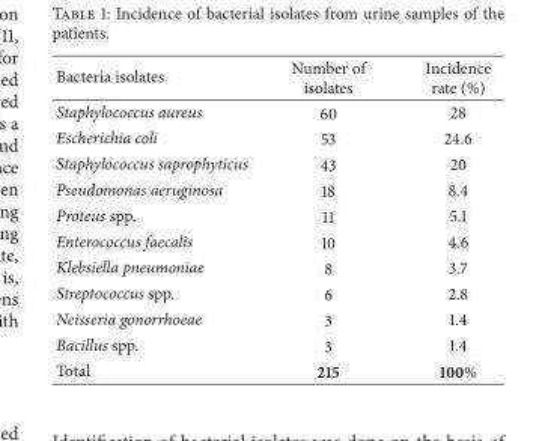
<table><thead><tr><td>Bacteria isolates</td><td>Number of isolates</td><td>Incidence rate (%)</td></tr></thead><tbody><tr><td>Staphylococcus aureus</td><td>60</td><td>28</td></tr><tr><td>Escherichia coli</td><td>53</td><td>24.6</td></tr><tr><td>Staphylococcus saprophyticus</td><td>43</td><td>20</td></tr><tr><td>Pseudomonas aeruginosa</td><td>18</td><td>8.4</td></tr><tr><td>Proteus spp.</td><td>11</td><td>5.1</td></tr><tr><td>Enterococcus faecalis</td><td>10</td><td>4.6</td></tr><tr><td>Klebsiella pneumoniae</td><td>8</td><td>3.7</td></tr><tr><td>Streptococcus spp.</td><td>6</td><td>2.8</td></tr><tr><td>Neisseria gonorrhoeae</td><td>3</td><td>1.4</td></tr><tr><td>Bacillus spp.</td><td>3</td><td>1.4</td></tr><tr><td>Total</td><td>215</td><td>100%</td></tr></tbody></table>